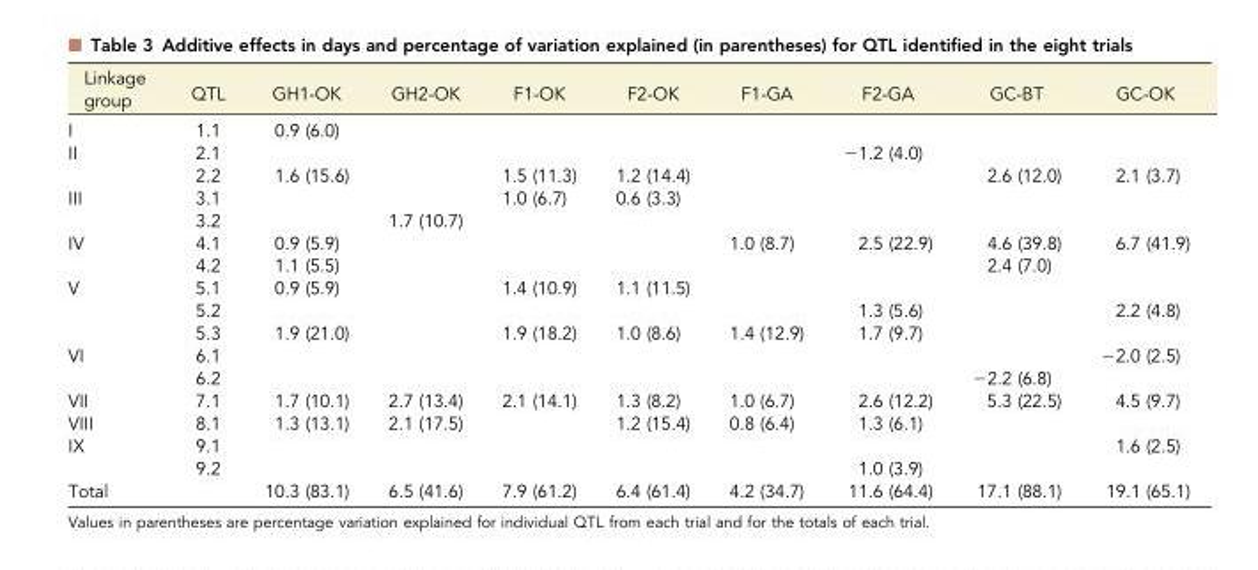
<table><thead><tr><td>Linkage group</td><td>QTL</td><td>GH1-OK</td><td>GH2-OK</td><td>F1-OK</td><td>F2-OK</td><td>F1-GA</td><td>F2-GA</td><td>GC-BT</td><td>GC-OK</td></tr></thead><tbody><tr><td>I</td><td>1.1</td><td>0.9 (6.0)</td><td></td><td></td><td></td><td></td><td></td><td></td><td></td></tr><tr><td rowspan="2">II</td><td>2.1</td><td></td><td></td><td></td><td></td><td></td><td>−1.2 (4.0)</td><td></td><td></td></tr><tr><td>2.2</td><td>1.6 (15.6)</td><td></td><td>1.5 (11.3)</td><td>1.2 (14.4)</td><td></td><td></td><td>2.6 (12.0)</td><td>2.1 (3.7)</td></tr><tr><td rowspan="2">III</td><td>3.1</td><td></td><td></td><td>1.0 (6.7)</td><td>0.6 (3.3)</td><td></td><td></td><td></td><td></td></tr><tr><td>3.2</td><td></td><td>1.7 (10.7)</td><td></td><td></td><td></td><td></td><td></td><td></td></tr><tr><td rowspan="2">IV</td><td>4.1</td><td>0.9 (5.9)</td><td></td><td></td><td></td><td>1.0 (8.7)</td><td>2.5 (22.9)</td><td>4.6 (39.8)</td><td>6.7 (41.9)</td></tr><tr><td>4.2</td><td>1.1 (5.5)</td><td></td><td></td><td></td><td></td><td></td><td>2.4 (7.0)</td><td></td></tr><tr><td rowspan="3">V</td><td>5.1</td><td>0.9 (5.9)</td><td></td><td>1.4 (10.9)</td><td>1.1 (11.5)</td><td></td><td></td><td></td><td></td></tr><tr><td>5.2</td><td></td><td></td><td></td><td></td><td></td><td>1.3 (5.6)</td><td></td><td>2.2 (4.8)</td></tr><tr><td>5.3</td><td>1.9 (21.0)</td><td></td><td>1.9 (18.2)</td><td>1.0 (8.6)</td><td>1.4 (12.9)</td><td>1.7 (9.7)</td><td></td><td></td></tr><tr><td rowspan="2">VI</td><td>6.1</td><td></td><td></td><td></td><td></td><td></td><td></td><td></td><td>−2.0 (2.5)</td></tr><tr><td>6.2</td><td></td><td></td><td></td><td></td><td></td><td></td><td>−2.2 (6.8)</td><td></td></tr><tr><td>VII</td><td>7.1</td><td>1.7 (10.1)</td><td>2.7 (13.4)</td><td>2.1 (14.1)</td><td>1.3 (8.2)</td><td>1.0 (6.7)</td><td>2.6 (12.2)</td><td>5.3 (22.5)</td><td>4.5 (9.7)</td></tr><tr><td>VIII</td><td>8.1</td><td>1.3 (13.1)</td><td>2.1 (17.5)</td><td></td><td>1.2 (15.4)</td><td>0.8 (6.4)</td><td>1.3 (6.1)</td><td></td><td></td></tr><tr><td rowspan="2">IX</td><td>9.1</td><td></td><td></td><td></td><td></td><td></td><td></td><td></td><td>1.6 (2.5)</td></tr><tr><td>9.2</td><td></td><td></td><td></td><td></td><td></td><td>1.0 (3.9)</td><td></td><td></td></tr><tr><td>Total</td><td></td><td>10.3 (83.1)</td><td>6.5 (41.6)</td><td>7.9 (61.2)</td><td>6.4 (61.4)</td><td>4.2 (34.7)</td><td>11.6 (64.4)</td><td>17.1 (88.1)</td><td>19.1 (65.1)</td></tr></tbody></table>